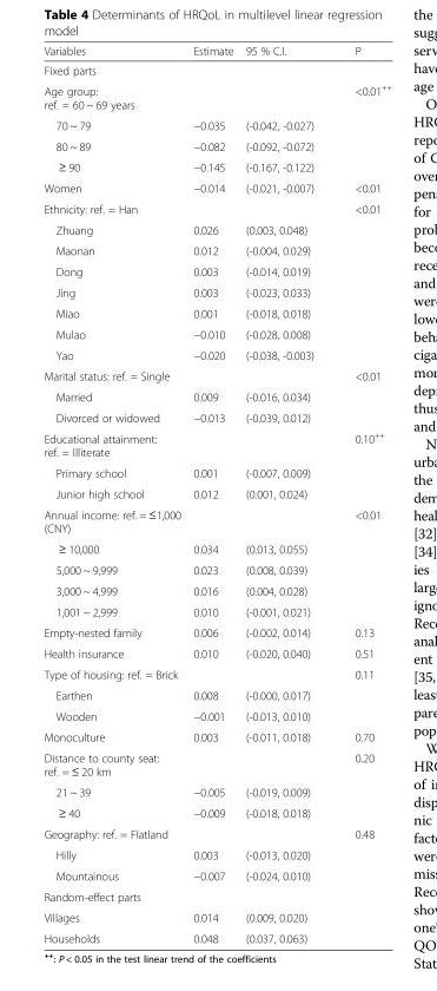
<table><thead><tr><td>Variables</td><td>Estimate</td><td>95 % C.I.</td><td>P</td></tr></thead><tbody><tr><td colspan="4">Fixed parts</td></tr><tr><td>Age group: ref. = 60 ~ 69 years</td><td></td><td></td><td>&lt;0.01<sup>++</sup></td></tr><tr><td>70 ~ 79</td><td>−0.035</td><td>(-0.042, -0.027)</td><td></td></tr><tr><td>80 ~ 89</td><td>−0.082</td><td>(-0.092, -0.072)</td><td></td></tr><tr><td>≥ 90</td><td>−0.145</td><td>(-0.167, -0.122)</td><td></td></tr><tr><td>Women</td><td>−0.014</td><td>(-0.021, -0.007)</td><td>&lt;0.01</td></tr><tr><td>Ethnicity: ref. = Han</td><td></td><td></td><td>&lt;0.01</td></tr><tr><td>Zhuang</td><td>0.026</td><td>(0.003, 0.048)</td><td></td></tr><tr><td>Maonan</td><td>0.012</td><td>(-0.004, 0.029)</td><td></td></tr><tr><td>Dong</td><td>0.003</td><td>(-0.014, 0.019)</td><td></td></tr><tr><td>Jing</td><td>0.003</td><td>(-0.023, 0.033)</td><td></td></tr><tr><td>Miao</td><td>0.001</td><td>(-0.018, 0.018)</td><td></td></tr><tr><td>Mulao</td><td>−0.010</td><td>(-0.028, 0.008)</td><td></td></tr><tr><td>Yao</td><td>−0.020</td><td>(-0.038, -0.003)</td><td></td></tr><tr><td>Marital status: ref. = Single</td><td></td><td></td><td>&lt;0.01</td></tr><tr><td>Married</td><td>0.009</td><td>(-0.016, 0.034)</td><td></td></tr><tr><td>Divorced or widowed</td><td>−0.013</td><td>(-0.039, 0.012)</td><td></td></tr><tr><td>Educational attainment: ref. = Illiterate</td><td></td><td></td><td>0.10<sup>++</sup></td></tr><tr><td>Primary school</td><td>0.001</td><td>(-0.007, 0.009)</td><td></td></tr><tr><td>Junior high school</td><td>0.012</td><td>(0.001, 0.024)</td><td></td></tr><tr><td>Annual income: ref. = ≤1,000 (CNY)</td><td></td><td></td><td>&lt;0.01</td></tr><tr><td>≥ 10,000</td><td>0.034</td><td>(0.013, 0.055)</td><td></td></tr><tr><td>5,000 ~ 9,999</td><td>0.023</td><td>(0.008, 0.039)</td><td></td></tr><tr><td>3,000 ~ 4,999</td><td>0.016</td><td>(0.004, 0.028)</td><td></td></tr><tr><td>1,001 ~ 2,999</td><td>0.010</td><td>(-0.001, 0.021)</td><td></td></tr><tr><td>Empty-nested family</td><td>0.006</td><td>(-0.002, 0.014)</td><td>0.13</td></tr><tr><td>Health insurance</td><td>0.010</td><td>(-0.020, 0.040)</td><td>0.51</td></tr><tr><td>Type of housing: ref. = Brick</td><td></td><td></td><td>0.11</td></tr><tr><td>Earthen</td><td>0.008</td><td>(-0.000, 0.017)</td><td></td></tr><tr><td>Wooden</td><td>−0.001</td><td>(-0.013, 0.010)</td><td></td></tr><tr><td>Monoculture</td><td>0.003</td><td>(-0.011, 0.018)</td><td>0.70</td></tr><tr><td>Distance to county seat: ref. = ≤ 20 km</td><td></td><td></td><td>0.20</td></tr><tr><td>21 ~ 39</td><td>−0.005</td><td>(-0.019, 0.009)</td><td></td></tr><tr><td>≥ 40</td><td>−0.009</td><td>(-0.018, 0.018)</td><td></td></tr><tr><td>Geography: ref. = Flatland</td><td></td><td></td><td>0.48</td></tr><tr><td>Hilly</td><td>0.003</td><td>(-0.013, 0.020)</td><td></td></tr><tr><td>Mountainous</td><td>−0.007</td><td>(-0.024, 0.010)</td><td></td></tr><tr><td colspan="4">Random-effect parts</td></tr><tr><td>Villages</td><td>0.014</td><td>(0.009, 0.020)</td><td></td></tr><tr><td>Households</td><td>0.048</td><td>(0.037, 0.063)</td><td></td></tr></tbody></table>